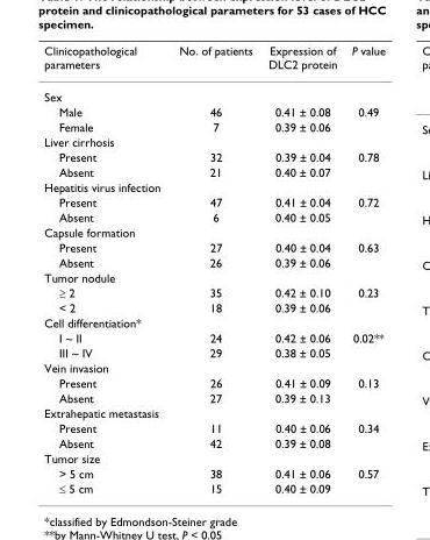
<table><thead><tr><td>Clinicopathological parameters</td><td>No. of patients</td><td>Expression of DLC2 protein</td><td>P value</td></tr></thead><tbody><tr><td colspan="4">Sex</td></tr><tr><td>Male</td><td>46</td><td>0.41 ± 0.08</td><td>0.49</td></tr><tr><td>Female</td><td>7</td><td>0.39 ± 0.06</td><td></td></tr><tr><td colspan="4">Liver cirrhosis</td></tr><tr><td>Present</td><td>32</td><td>0.39 ± 0.04</td><td>0.78</td></tr><tr><td>Absent</td><td>21</td><td>0.40 ± 0.07</td><td></td></tr><tr><td colspan="4">Hepatitis virus infection</td></tr><tr><td>Present</td><td>47</td><td>0.41 ± 0.04</td><td>0.72</td></tr><tr><td>Absent</td><td>6</td><td>0.40 ± 0.05</td><td></td></tr><tr><td colspan="4">Capsule formation</td></tr><tr><td>Present</td><td>27</td><td>0.40 ± 0.04</td><td>0.63</td></tr><tr><td>Absent</td><td>26</td><td>0.39 ± 0.06</td><td></td></tr><tr><td colspan="4">Tumor nodule</td></tr><tr><td>≥ 2</td><td>35</td><td>0.42 ± 0.10</td><td>0.23</td></tr><tr><td>&lt; 2</td><td>18</td><td>0.39 ± 0.06</td><td></td></tr><tr><td colspan="4">Cell differentiation*</td></tr><tr><td>I ~ II</td><td>24</td><td>0.42 ± 0.06</td><td>0.02**</td></tr><tr><td>III ~ IV</td><td>29</td><td>0.38 ± 0.05</td><td></td></tr><tr><td colspan="4">Vein invasion</td></tr><tr><td>Present</td><td>26</td><td>0.41 ± 0.09</td><td>0.13</td></tr><tr><td>Absent</td><td>27</td><td>0.39 ± 0.13</td><td></td></tr><tr><td colspan="4">Extrahepatic metastasis</td></tr><tr><td>Present</td><td>11</td><td>0.40 ± 0.06</td><td>0.34</td></tr><tr><td>Absent</td><td>42</td><td>0.39 ± 0.08</td><td></td></tr><tr><td colspan="4">Tumor size</td></tr><tr><td>&gt; 5 cm</td><td>38</td><td>0.41 ± 0.06</td><td>0.57</td></tr><tr><td>≤ 5 cm</td><td>15</td><td>0.40 ± 0.09</td><td></td></tr></tbody></table>